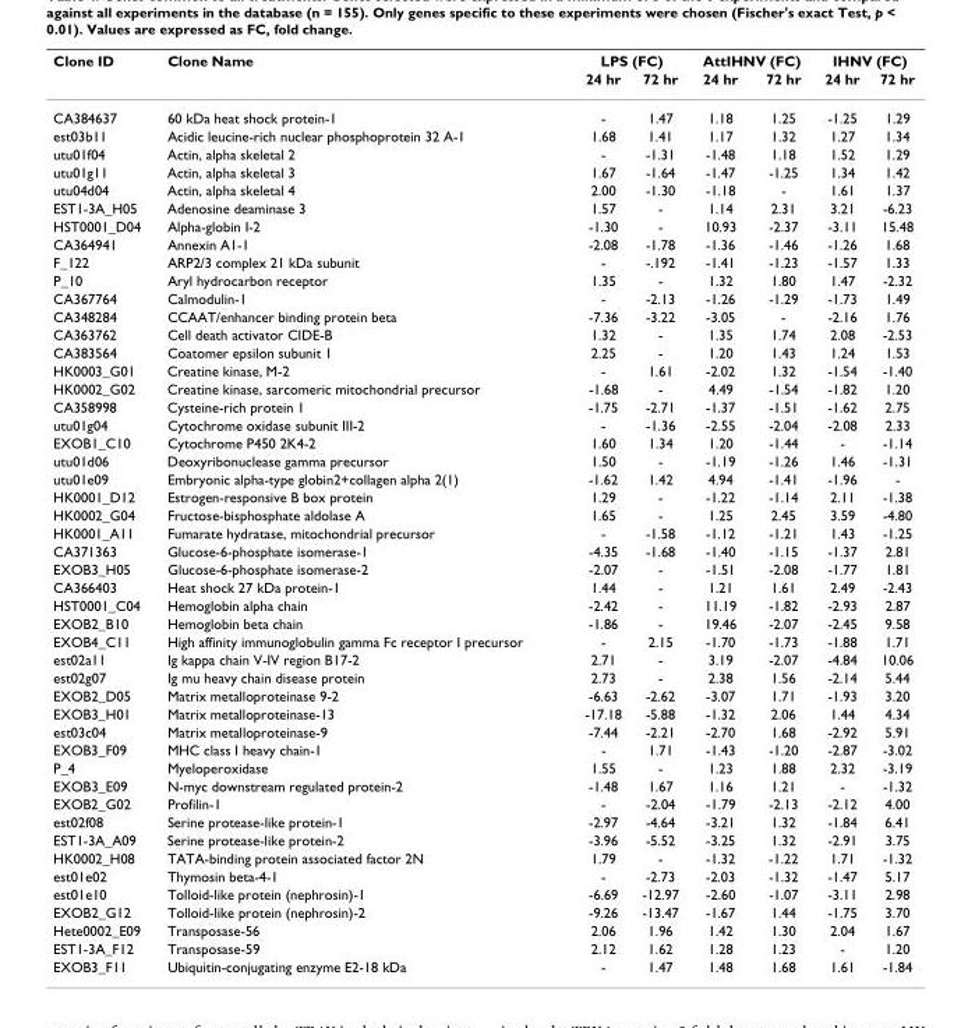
<table><thead><tr><td rowspan="2">Clone ID</td><td rowspan="2">Clone Name</td><td colspan="2">LPS (FC)</td><td colspan="2">AttIHNV (FC)</td><td colspan="2">IHNV (FC)</td></tr><tr><td>24 hr</td><td>72 hr</td><td>24 hr</td><td>72 hr</td><td>24 hr</td><td>72 hr</td></tr></thead><tbody><tr><td>CA384637</td><td>60 kDa heat shock protein-1</td><td>-</td><td>1.47</td><td>1.18</td><td>1.25</td><td>-1.25</td><td>1.29</td></tr><tr><td>est03b11</td><td>Acidic leucine-rich nuclear phosphoprotein 32 A-1</td><td>1.68</td><td>1.41</td><td>1.17</td><td>1.32</td><td>1.27</td><td>1.34</td></tr><tr><td>utu01f04</td><td>Actin, alpha skeletal 2</td><td>-</td><td>-1.31</td><td>-1.48</td><td>1.18</td><td>1.52</td><td>1.29</td></tr><tr><td>utu01g11</td><td>Actin, alpha skeletal 3</td><td>1.67</td><td>-1.64</td><td>-1.47</td><td>-1.25</td><td>1.34</td><td>1.42</td></tr><tr><td>utu04d04</td><td>Actin, alpha skeletal 4</td><td>2.00</td><td>-1.30</td><td>-1.18</td><td>-</td><td>1.61</td><td>1.37</td></tr><tr><td>EST1-3A_H05</td><td>Adenosine deaminase 3</td><td>1.57</td><td>-</td><td>1.14</td><td>2.31</td><td>3.21</td><td>-6.23</td></tr><tr><td>HST0001_D04</td><td>Alpha-globin I-2</td><td>-1.30</td><td>-</td><td>10.93</td><td>-2.37</td><td>-3.11</td><td>15.48</td></tr><tr><td>CA364941</td><td>Annexin A1-1</td><td>-2.08</td><td>-1.78</td><td>-1.36</td><td>-1.46</td><td>-1.26</td><td>1.68</td></tr><tr><td>F_122</td><td>ARP2/3 complex 21 kDa subunit</td><td>-</td><td>-.192</td><td>-1.41</td><td>-1.23</td><td>-1.57</td><td>1.33</td></tr><tr><td>P_10</td><td>Aryl hydrocarbon receptor</td><td>1.35</td><td>-</td><td>1.32</td><td>1.80</td><td>1.47</td><td>-2.32</td></tr><tr><td>CA367764</td><td>Calmodulin-1</td><td>-</td><td>-2.13</td><td>-1.26</td><td>-1.29</td><td>-1.73</td><td>1.49</td></tr><tr><td>CA348284</td><td>CCAAT/enhancer binding protein beta</td><td>-7.36</td><td>-3.22</td><td>-3.05</td><td>-</td><td>-2.16</td><td>1.76</td></tr><tr><td>CA363762</td><td>Cell death activator CIDE-B</td><td>1.32</td><td>-</td><td>1.35</td><td>1.74</td><td>2.08</td><td>-2.53</td></tr><tr><td>CA383564</td><td>Coatomer epsilon subunit 1</td><td>2.25</td><td>-</td><td>1.20</td><td>1.43</td><td>1.24</td><td>1.53</td></tr><tr><td>HK0003_G01</td><td>Creatine kinase, M-2</td><td>-</td><td>1.61</td><td>-2.02</td><td>1.32</td><td>-1.54</td><td>-1.40</td></tr><tr><td>HK0002_G02</td><td>Creatine kinase, sarcomeric mitochondrial precursor</td><td>-1.68</td><td>-</td><td>4.49</td><td>-1.54</td><td>-1.82</td><td>1.20</td></tr><tr><td>CA358998</td><td>Cysteine-rich protein 1</td><td>-1.75</td><td>-2.71</td><td>-1.37</td><td>-1.51</td><td>-1.62</td><td>2.75</td></tr><tr><td>utu01g04</td><td>Cytochrome oxidase subunit III-2</td><td>-</td><td>-1.36</td><td>-2.55</td><td>-2.04</td><td>-2.08</td><td>2.33</td></tr><tr><td>EXOB1_C10</td><td>Cytochrome P450 2K4-2</td><td>1.60</td><td>1.34</td><td>1.20</td><td>-1.44</td><td>-</td><td>-1.14</td></tr><tr><td>utu01d06</td><td>Deoxyribonuclease gamma precursor</td><td>1.50</td><td>-</td><td>-1.19</td><td>-1.26</td><td>1.46</td><td>-1.31</td></tr><tr><td>utu01e09</td><td>Embryonic alpha-type globin2+collagen alpha 2(1)</td><td>-1.62</td><td>1.42</td><td>4.94</td><td>-1.41</td><td>-1.96</td><td>-</td></tr><tr><td>HK0001_D12</td><td>Estrogen-responsive B box protein</td><td>1.29</td><td>-</td><td>-1.22</td><td>-1.14</td><td>2.11</td><td>-1.38</td></tr><tr><td>HK0002_G04</td><td>Fructose-bisphosphate aldolase A</td><td>1.65</td><td>-</td><td>1.25</td><td>2.45</td><td>3.59</td><td>-4.80</td></tr><tr><td>HK0001_A11</td><td>Fumarate hydratase, mitochondrial precursor</td><td>-</td><td>-1.58</td><td>-1.12</td><td>-1.21</td><td>1.43</td><td>-1.25</td></tr><tr><td>CA371363</td><td>Glucose-6-phosphate isomerase-1</td><td>-4.35</td><td>-1.68</td><td>-1.40</td><td>-1.15</td><td>-1.37</td><td>2.81</td></tr><tr><td>EXOB3_H05</td><td>Glucose-6-phosphate isomerase-2</td><td>-2.07</td><td>-</td><td>-1.51</td><td>-2.08</td><td>-1.77</td><td>1.81</td></tr><tr><td>CA366403</td><td>Heat shock 27 kDa protein-1</td><td>1.44</td><td>-</td><td>1.21</td><td>1.61</td><td>2.49</td><td>-2.43</td></tr><tr><td>HST0001_C04</td><td>Hemoglobin alpha chain</td><td>-2.42</td><td>-</td><td>11.19</td><td>-1.82</td><td>-2.93</td><td>2.87</td></tr><tr><td>EXOB2_B10</td><td>Hemoglobin beta chain</td><td>-1.86</td><td>-</td><td>19.46</td><td>-2.07</td><td>-2.45</td><td>9.58</td></tr><tr><td>EXOB4_C11</td><td>High affinity immunoglobulin gamma Fc receptor I precursor</td><td>-</td><td>2.15</td><td>-1.70</td><td>-1.73</td><td>-1.88</td><td>1.71</td></tr><tr><td>est02a11</td><td>Ig kappa chain V-IV region B17-2</td><td>2.71</td><td>-</td><td>3.19</td><td>-2.07</td><td>-4.84</td><td>10.06</td></tr><tr><td>est02g07</td><td>Ig mu heavy chain disease protein</td><td>2.73</td><td>-</td><td>2.38</td><td>1.56</td><td>-2.14</td><td>5.44</td></tr><tr><td>EXOB2_D05</td><td>Matrix metalloproteinase 9-2</td><td>-6.63</td><td>-2.62</td><td>-3.07</td><td>1.71</td><td>-1.93</td><td>3.20</td></tr><tr><td>EXOB3_H01</td><td>Matrix metalloproteinase-13</td><td>-17.18</td><td>-5.88</td><td>-1.32</td><td>2.06</td><td>1.44</td><td>4.34</td></tr><tr><td>est03c04</td><td>Matrix metalloproteinase-9</td><td>-7.44</td><td>-2.21</td><td>-2.70</td><td>1.68</td><td>-2.92</td><td>5.91</td></tr><tr><td>EXOB3_F09</td><td>MHC class I heavy chain-1</td><td>-</td><td>1.71</td><td>-1.43</td><td>-1.20</td><td>-2.87</td><td>-3.02</td></tr><tr><td>P_4</td><td>Myeloperoxidase</td><td>1.55</td><td>-</td><td>1.23</td><td>1.88</td><td>2.32</td><td>-3.19</td></tr><tr><td>EXOB3_E09</td><td>N-myc downstream regulated protein-2</td><td>-1.48</td><td>1.67</td><td>1.16</td><td>1.21</td><td>-</td><td>-1.32</td></tr><tr><td>EXOB2_G02</td><td>Profilin-1</td><td>-</td><td>-2.04</td><td>-1.79</td><td>-2.13</td><td>-2.12</td><td>4.00</td></tr><tr><td>est02f08</td><td>Serine protease-like protein-1</td><td>-2.97</td><td>-4.64</td><td>-3.21</td><td>1.32</td><td>-1.84</td><td>6.41</td></tr><tr><td>EST1-3A_A09</td><td>Serine protease-like protein-2</td><td>-3.96</td><td>-5.52</td><td>-3.25</td><td>1.32</td><td>-2.91</td><td>3.75</td></tr><tr><td>HK0002_H08</td><td>TATA-binding protein associated factor 2N</td><td>1.79</td><td>-</td><td>-1.32</td><td>-1.22</td><td>1.71</td><td>-1.32</td></tr><tr><td>est01e02</td><td>Thymosin beta-4-1</td><td>-</td><td>-2.73</td><td>-2.03</td><td>-1.32</td><td>-1.47</td><td>5.17</td></tr><tr><td>est01e10</td><td>Tolloid-like protein (nephrosin)-1</td><td>-6.69</td><td>-12.97</td><td>-2.60</td><td>-1.07</td><td>-3.11</td><td>2.98</td></tr><tr><td>EXOB2_G12</td><td>Tolloid-like protein (nephrosin)-2</td><td>-9.26</td><td>-13.47</td><td>-1.67</td><td>1.44</td><td>-1.75</td><td>3.70</td></tr><tr><td>Hete0002_E09</td><td>Transposase-56</td><td>2.06</td><td>1.96</td><td>1.42</td><td>1.30</td><td>2.04</td><td>1.67</td></tr><tr><td>EST1-3A_F12</td><td>Transposase-59</td><td>2.12</td><td>1.62</td><td>1.28</td><td>1.23</td><td>-</td><td>1.20</td></tr><tr><td>EXOB3_F11</td><td>Ubiquitin-conjugating enzyme E2-18 kDa</td><td>-</td><td>1.47</td><td>1.48</td><td>1.68</td><td>1.61</td><td>-1.84</td></tr></tbody></table>